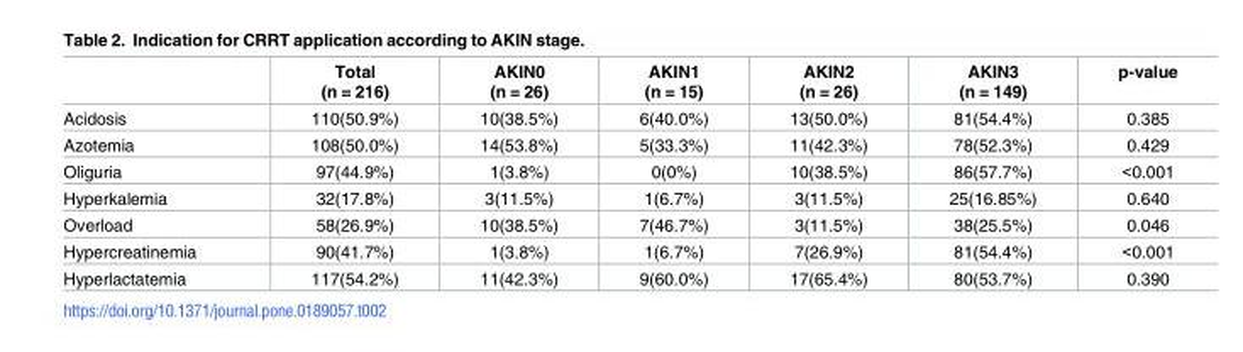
<table><thead><tr><td></td><td>Total (n = 216)</td><td>AKIN0 (n = 26)</td><td>AKIN1 (n = 15)</td><td>AKIN2 (n = 26)</td><td>AKIN3 (n = 149)</td><td>p-value</td></tr></thead><tbody><tr><td>Acidosis</td><td>110(50.9%)</td><td>10(38.5%)</td><td>6(40.0%)</td><td>13(50.0%)</td><td>81(54.4%)</td><td>0.385</td></tr><tr><td>Azotemia</td><td>108(50.0%)</td><td>14(53.8%)</td><td>5(33.3%)</td><td>11(42.3%)</td><td>78(52.3%)</td><td>0.429</td></tr><tr><td>Oliguria</td><td>97(44.9%)</td><td>1(3.8%)</td><td>0(0%)</td><td>10(38.5%)</td><td>86(57.7%)</td><td>&lt;0.001</td></tr><tr><td>Hyperkalemia</td><td>32(17.8%)</td><td>3(11.5%)</td><td>1(6.7%)</td><td>3(11.5%)</td><td>25(16.85%)</td><td>0.640</td></tr><tr><td>Overload</td><td>58(26.9%)</td><td>10(38.5%)</td><td>7(46.7%)</td><td>3(11.5%)</td><td>38(25.5%)</td><td>0.046</td></tr><tr><td>Hypercreatinemia</td><td>90(41.7%)</td><td>1(3.8%)</td><td>1(6.7%)</td><td>7(26.9%)</td><td>81(54.4%)</td><td>&lt;0.001</td></tr><tr><td>Hyperlactatemia</td><td>117(54.2%)</td><td>11(42.3%)</td><td>9(60.0%)</td><td>17(65.4%)</td><td>80(53.7%)</td><td>0.390</td></tr></tbody></table>